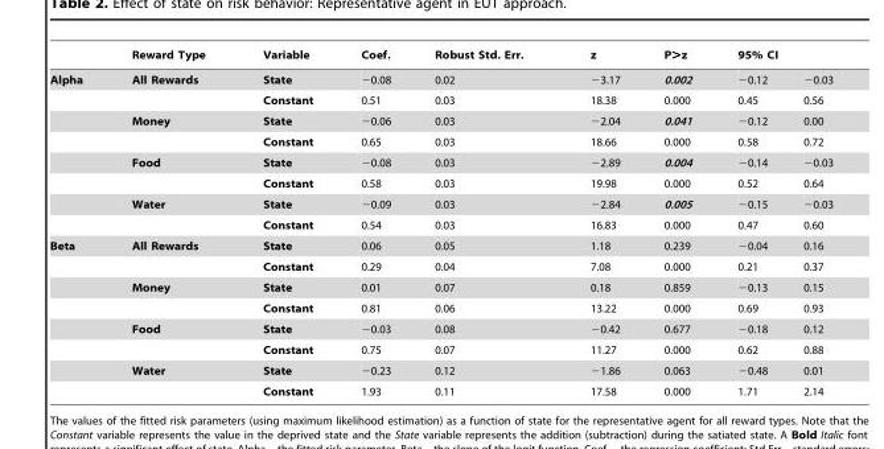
<table><thead><tr><td rowspan="2">Alpha</td><td rowspan="2">Reward Type All Rewards</td><td rowspan="2">Variable State</td><td rowspan="2">Coef. −0.08</td><td rowspan="2">Robust Std. Err. 0.02</td><td rowspan="2">z −3.17</td><td rowspan="2">P&gt;z 0.002</td><td colspan="2">95% CI</td></tr><tr><td>−0.12</td><td>−0.03</td></tr></thead><tbody><tr><td></td><td></td><td>Constant</td><td>0.51</td><td>0.03</td><td>18.38</td><td>0.000</td><td>0.45</td><td>0.56</td></tr><tr><td></td><td>Money</td><td>State</td><td>−0.06</td><td>0.03</td><td>−2.04</td><td>0.041</td><td>−0.12</td><td>0.00</td></tr><tr><td></td><td></td><td>Constant</td><td>0.65</td><td>0.03</td><td>18.66</td><td>0.000</td><td>0.58</td><td>0.72</td></tr><tr><td></td><td>Food</td><td>State</td><td>−0.08</td><td>0.03</td><td>−2.89</td><td>0.004</td><td>−0.14</td><td>−0.03</td></tr><tr><td></td><td></td><td>Constant</td><td>0.58</td><td>0.03</td><td>19.98</td><td>0.000</td><td>0.52</td><td>0.64</td></tr><tr><td></td><td>Water</td><td>State</td><td>−0.09</td><td>0.03</td><td>−2.84</td><td>0.005</td><td>−0.15</td><td>−0.03</td></tr><tr><td></td><td></td><td>Constant</td><td>0.54</td><td>0.03</td><td>16.83</td><td>0.000</td><td>0.47</td><td>0.60</td></tr><tr><td rowspan="8">Beta</td><td>All Rewards</td><td>State</td><td>0.06</td><td>0.05</td><td>1.18</td><td>0.239</td><td>−0.04</td><td>0.16</td></tr><tr><td></td><td>Constant</td><td>0.29</td><td>0.04</td><td>7.08</td><td>0.000</td><td>0.21</td><td>0.37</td></tr><tr><td>Money</td><td>State</td><td>0.01</td><td>0.07</td><td>0.18</td><td>0.859</td><td>−0.13</td><td>0.15</td></tr><tr><td></td><td>Constant</td><td>0.81</td><td>0.06</td><td>13.22</td><td>0.000</td><td>0.69</td><td>0.93</td></tr><tr><td>Food</td><td>State</td><td>−0.03</td><td>0.08</td><td>−0.42</td><td>0.677</td><td>−0.18</td><td>0.12</td></tr><tr><td></td><td>Constant</td><td>0.75</td><td>0.07</td><td>11.27</td><td>0.000</td><td>0.62</td><td>0.88</td></tr><tr><td>Water</td><td>State</td><td>−0.23</td><td>0.12</td><td>−1.86</td><td>0.063</td><td>−0.48</td><td>0.01</td></tr><tr><td></td><td>Constant</td><td>1.93</td><td>0.11</td><td>17.58</td><td>0.000</td><td>1.71</td><td>2.14</td></tr></tbody></table>